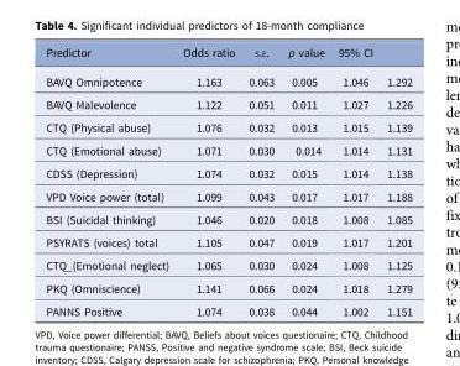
<table><thead><tr><td>Predictor</td><td>Odds ratio</td><td>S.E.</td><td>p value</td><td>95% CI</td><td></td></tr></thead><tbody><tr><td>BAVQ Omnipotence</td><td>1.163</td><td>0.063</td><td>0.005</td><td>1.046</td><td>1.292</td></tr><tr><td>BAVQ Malevolence</td><td>1.122</td><td>0.051</td><td>0.011</td><td>1.027</td><td>1.226</td></tr><tr><td>CTQ (Physical abuse)</td><td>1.076</td><td>0.032</td><td>0.013</td><td>1.015</td><td>1.139</td></tr><tr><td>CTQ (Emotional abuse)</td><td>1.071</td><td>0.030</td><td>0.014</td><td>1.014</td><td>1.131</td></tr><tr><td>CDSS (Depression)</td><td>1.074</td><td>0.032</td><td>0.015</td><td>1.014</td><td>1.138</td></tr><tr><td>VPD Voice power (total)</td><td>1.099</td><td>0.043</td><td>0.017</td><td>1.017</td><td>1.188</td></tr><tr><td>BSI (Suicidal thinking)</td><td>1.046</td><td>0.020</td><td>0.018</td><td>1.008</td><td>1.085</td></tr><tr><td>PSYRATS (voices) total</td><td>1.105</td><td>0.047</td><td>0.019</td><td>1.017</td><td>1.201</td></tr><tr><td>CTQ_(Emotional neglect)</td><td>1.065</td><td>0.030</td><td>0.024</td><td>1.008</td><td>1.125</td></tr><tr><td>PKQ (Omniscience)</td><td>1.141</td><td>0.066</td><td>0.024</td><td>1.018</td><td>1.279</td></tr><tr><td>PANNS Positive</td><td>1.074</td><td>0.038</td><td>0.044</td><td>1.002</td><td>1.151</td></tr></tbody></table>